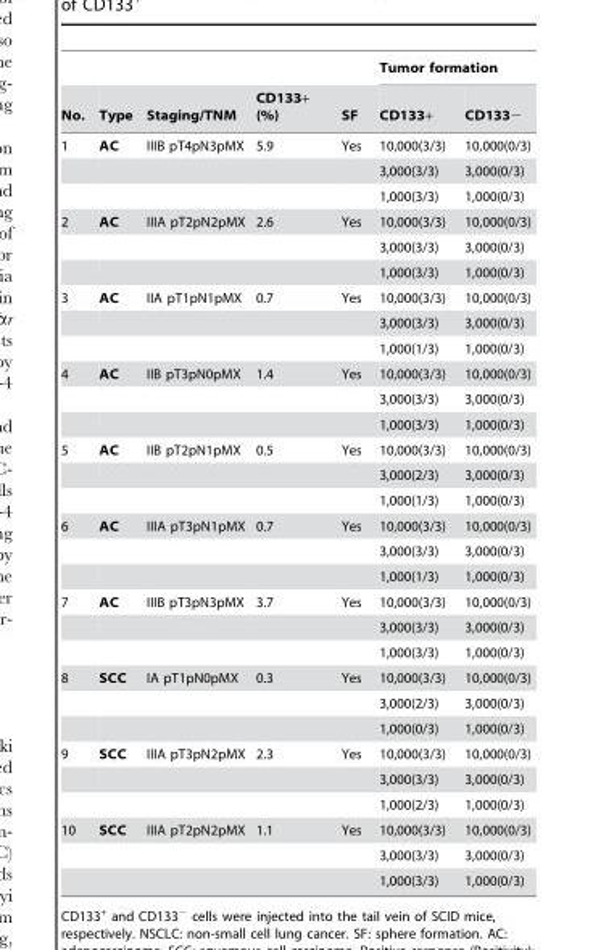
<table><thead><tr><td rowspan="2">No.</td><td rowspan="2">Type</td><td rowspan="2">Staging/TNM</td><td rowspan="2">CD133+ (%)</td><td rowspan="2">SF</td><td colspan="2">Tumor formation</td></tr><tr><td>CD133+</td><td>CD133−</td></tr></thead><tbody><tr><td rowspan="3">1</td><td>AC</td><td>IIIB pT4pN3pMX</td><td>5.9</td><td>Yes</td><td>10,000(3/3)</td><td>10,000(0/3)</td></tr><tr><td></td><td></td><td></td><td></td><td>3,000(3/3)</td><td>3,000(0/3)</td></tr><tr><td></td><td></td><td></td><td></td><td>1,000(3/3)</td><td>1,000(0/3)</td></tr><tr><td rowspan="3">2</td><td>AC</td><td>IIIA pT2pN2pMX</td><td>2.6</td><td>Yes</td><td>10,000(3/3)</td><td>10,000(0/3)</td></tr><tr><td></td><td></td><td></td><td></td><td>3,000(3/3)</td><td>3,000(0/3)</td></tr><tr><td></td><td></td><td></td><td></td><td>1,000(3/3)</td><td>1,000(0/3)</td></tr><tr><td rowspan="3">3</td><td>AC</td><td>IIA pT1pN1pMX</td><td>0.7</td><td>Yes</td><td>10,000(3/3)</td><td>10,000(0/3)</td></tr><tr><td></td><td></td><td></td><td></td><td>3,000(3/3)</td><td>3,000(0/3)</td></tr><tr><td></td><td></td><td></td><td></td><td>1,000(1/3)</td><td>1,000(0/3)</td></tr><tr><td rowspan="3">4</td><td>AC</td><td>IIB pT3pN0pMX</td><td>1.4</td><td>Yes</td><td>10,000(3/3)</td><td>10,000(0/3)</td></tr><tr><td></td><td></td><td></td><td></td><td>3,000(3/3)</td><td>3,000(0/3)</td></tr><tr><td></td><td></td><td></td><td></td><td>1,000(3/3)</td><td>1,000(0/3)</td></tr><tr><td rowspan="3">5</td><td>AC</td><td>IIB pT2pN1pMX</td><td>0.5</td><td>Yes</td><td>10,000(3/3)</td><td>10,000(0/3)</td></tr><tr><td></td><td></td><td></td><td></td><td>3,000(2/3)</td><td>3,000(0/3)</td></tr><tr><td></td><td></td><td></td><td></td><td>1,000(1/3)</td><td>1,000(0/3)</td></tr><tr><td rowspan="3">6</td><td>AC</td><td>IIIA pT3pN1pMX</td><td>0.7</td><td>Yes</td><td>10,000(3/3)</td><td>10,000(0/3)</td></tr><tr><td></td><td></td><td></td><td></td><td>3,000(3/3)</td><td>3,000(0/3)</td></tr><tr><td></td><td></td><td></td><td></td><td>1,000(1/3)</td><td>1,000(0/3)</td></tr><tr><td rowspan="3">7</td><td>AC</td><td>IIIB pT3pN3pMX</td><td>3.7</td><td>Yes</td><td>10,000(3/3)</td><td>10,000(0/3)</td></tr><tr><td></td><td></td><td></td><td></td><td>3,000(3/3)</td><td>3,000(0/3)</td></tr><tr><td></td><td></td><td></td><td></td><td>1,000(3/3)</td><td>1,000(0/3)</td></tr><tr><td rowspan="3">8</td><td>SCC</td><td>IA pT1pN0pMX</td><td>0.3</td><td>Yes</td><td>10,000(3/3)</td><td>10,000(0/3)</td></tr><tr><td></td><td></td><td></td><td></td><td>3,000(2/3)</td><td>3,000(0/3)</td></tr><tr><td></td><td></td><td></td><td></td><td>1,000(0/3)</td><td>1,000(0/3)</td></tr><tr><td rowspan="3">9</td><td>SCC</td><td>IIIA pT3pN2pMX</td><td>2.3</td><td>Yes</td><td>10,000(3/3)</td><td>10,000(0/3)</td></tr><tr><td></td><td></td><td></td><td></td><td>3,000(3/3)</td><td>3,000(0/3)</td></tr><tr><td></td><td></td><td></td><td></td><td>1,000(2/3)</td><td>1,000(0/3)</td></tr><tr><td rowspan="3">10</td><td>SCC</td><td>IIIA pT2pN2pMX</td><td>1.1</td><td>Yes</td><td>10,000(3/3)</td><td>10,000(0/3)</td></tr><tr><td></td><td></td><td></td><td></td><td>3,000(3/3)</td><td>3,000(0/3)</td></tr><tr><td></td><td></td><td></td><td></td><td>1,000(3/3)</td><td>1,000(0/3)</td></tr></tbody></table>